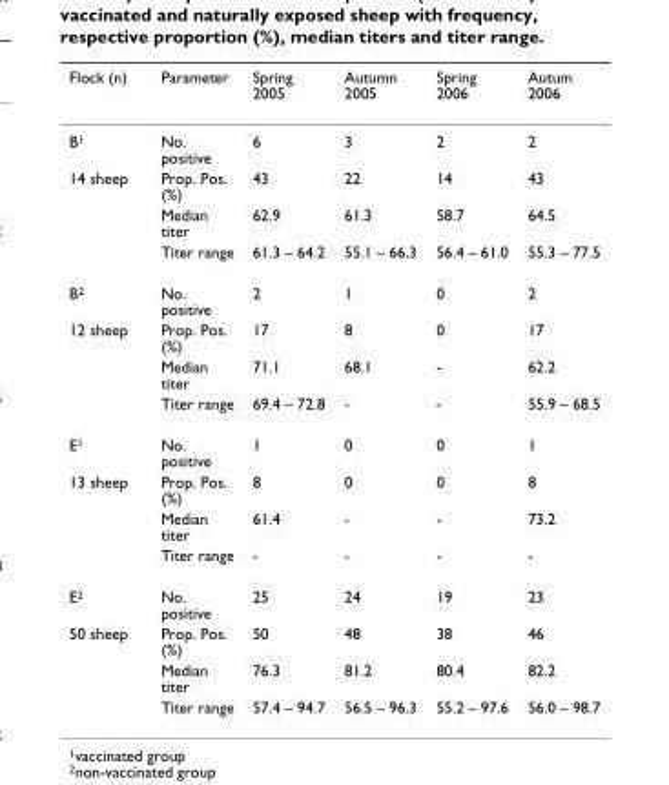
<table><thead><tr><td>Flock (n)</td><td>Parameter</td><td>Spring 2005</td><td>Autumn 2005</td><td>Spring 2006</td><td>Autum 2006</td></tr></thead><tbody><tr><td>B<sup>1</sup></td><td>No. positive</td><td>6</td><td>3</td><td>2</td><td>2</td></tr><tr><td rowspan="3">14 sheep</td><td>Prop. Pos. (%)</td><td>43</td><td>22</td><td>14</td><td>43</td></tr><tr><td>Median titer</td><td>62.9</td><td>61.3</td><td>58.7</td><td>64.5</td></tr><tr><td>Titer range</td><td>61.3 – 64.2</td><td>55.1 – 66.3</td><td>56.4 – 61.0</td><td>55.3 – 77.5</td></tr><tr><td>B<sup>2</sup></td><td>No. positive</td><td>2</td><td>1</td><td>0</td><td>2</td></tr><tr><td rowspan="3">12 sheep</td><td>Prop. Pos. (%)</td><td>17</td><td>8</td><td>0</td><td>17</td></tr><tr><td>Median titer</td><td>71.1</td><td>68.1</td><td>-</td><td>62.2</td></tr><tr><td>Titer range</td><td>69.4 – 72.8</td><td>-</td><td>-</td><td>55.9 – 68.5</td></tr><tr><td>E<sup>1</sup></td><td>No. positive</td><td>1</td><td>0</td><td>0</td><td>1</td></tr><tr><td rowspan="3">13 sheep</td><td>Prop. Pos. (%)</td><td>8</td><td>0</td><td>0</td><td>8</td></tr><tr><td>Median titer</td><td>61.4</td><td>-</td><td>-</td><td>73.2</td></tr><tr><td>Titer range</td><td>-</td><td>-</td><td>-</td><td>-</td></tr><tr><td>E<sup>2</sup></td><td>No. positive</td><td>25</td><td>24</td><td>19</td><td>23</td></tr><tr><td rowspan="3">50 sheep</td><td>Prop. Pos. (%)</td><td>50</td><td>48</td><td>38</td><td>46</td></tr><tr><td>Median titer</td><td>76.3</td><td>81.2</td><td>80.4</td><td>82.2</td></tr><tr><td>Titer range</td><td>57.4 – 94.7</td><td>56.5 – 96.3</td><td>55.2 – 97.6</td><td>56.0 – 98.7</td></tr></tbody></table>